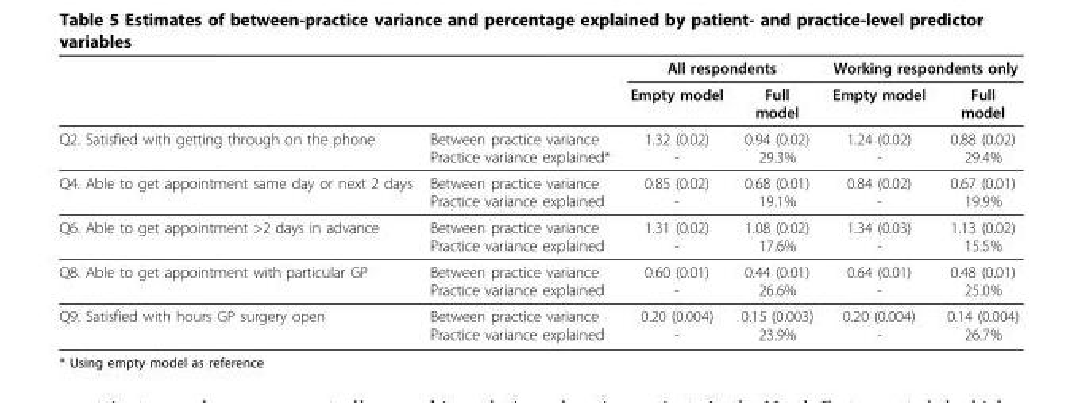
<table><thead><tr><td rowspan="2"></td><td rowspan="2"></td><td colspan="2">All respondents</td><td colspan="2">Working respondents only</td></tr><tr><td>Empty model</td><td>Full model</td><td>Empty model</td><td>Full model</td></tr></thead><tbody><tr><td>Q2. Satisfied with getting through on the phone</td><td>Between practice variance Practice variance explained*</td><td>1.32 (0.02) -</td><td>0.94 (0.02) 29.3%</td><td>1.24 (0.02) -</td><td>0.88 (0.02) 29.4%</td></tr><tr><td>Q4. Able to get appointment same day or next 2 days</td><td>Between practice variance Practice variance explained</td><td>0.85 (0.02) -</td><td>0.68 (0.01) 19.1%</td><td>0.84 (0.02) -</td><td>0.67 (0.01) 19.9%</td></tr><tr><td>Q6. Able to get appointment &gt;2 days in advance</td><td>Between practice variance Practice variance explained</td><td>1.31 (0.02) -</td><td>1.08 (0.02) 17.6%</td><td>1.34 (0.03) -</td><td>1.13 (0.02) 15.5%</td></tr><tr><td>Q8. Able to get appointment with particular GP</td><td>Between practice variance Practice variance explained</td><td>0.60 (0.01) -</td><td>0.44 (0.01) 26.6%</td><td>0.64 (0.01) -</td><td>0.48 (0.01) 25.0%</td></tr><tr><td>Q9. Satisfied with hours GP surgery open</td><td>Between practice variance Practice variance explained</td><td>0.20 (0.004) -</td><td>0.15 (0.003) 23.9%</td><td>0.20 (0.004) -</td><td>0.14 (0.004) 26.7%</td></tr></tbody></table>